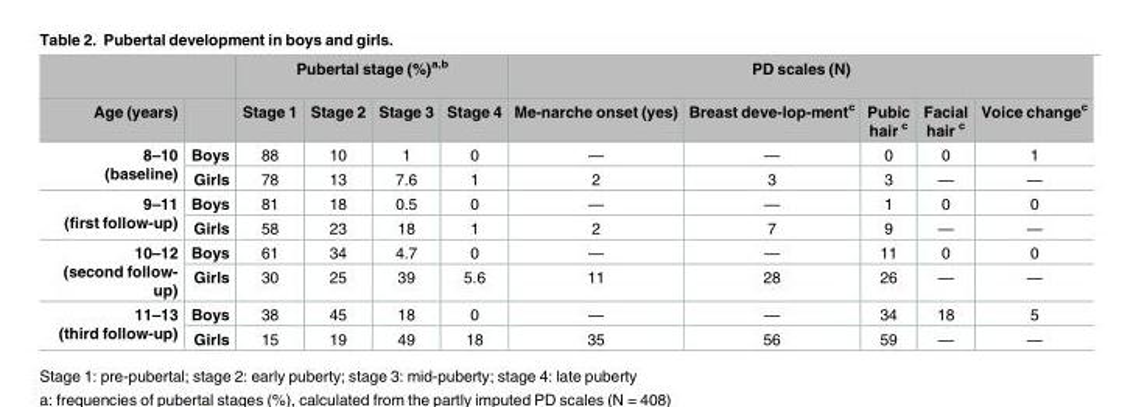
<table><thead><tr><td rowspan="2">Age (years)</td><td rowspan="2"></td><td colspan="4">Pubertal stage (%)<sup>a,b</sup></td><td colspan="5">PD scales (N)</td></tr><tr><td>Stage 1</td><td>Stage 2</td><td>Stage 3</td><td>Stage 4</td><td>Me-narche onset (yes)</td><td>Breast deve-lop-ment<sup>c</sup></td><td>Pubic hair <sup>c</sup></td><td>Facial hair <sup>c</sup></td><td>Voice change<sup>c</sup></td></tr></thead><tbody><tr><td rowspan="2">8–10 (baseline)</td><td>Boys</td><td>88</td><td>10</td><td>1</td><td>0</td><td>—</td><td>—</td><td>0</td><td>0</td><td>1</td></tr><tr><td>Girls</td><td>78</td><td>13</td><td>7.6</td><td>1</td><td>2</td><td>3</td><td>3</td><td>—</td><td>—</td></tr><tr><td rowspan="2">9–11 (first follow-up)</td><td>Boys</td><td>81</td><td>18</td><td>0.5</td><td>0</td><td>—</td><td>—</td><td>1</td><td>0</td><td>0</td></tr><tr><td>Girls</td><td>58</td><td>23</td><td>18</td><td>1</td><td>2</td><td>7</td><td>9</td><td>—</td><td>—</td></tr><tr><td rowspan="2">10–12 (second follow- up)</td><td>Boys</td><td>61</td><td>34</td><td>4.7</td><td>0</td><td>—</td><td>—</td><td>11</td><td>0</td><td>0</td></tr><tr><td>Girls</td><td>30</td><td>25</td><td>39</td><td>5.6</td><td>11</td><td>28</td><td>26</td><td>—</td><td>—</td></tr><tr><td rowspan="2">11–13 (third follow-up)</td><td>Boys</td><td>38</td><td>45</td><td>18</td><td>0</td><td>—</td><td>—</td><td>34</td><td>18</td><td>5</td></tr><tr><td>Girls</td><td>15</td><td>19</td><td>49</td><td>18</td><td>35</td><td>56</td><td>59</td><td>—</td><td>—</td></tr></tbody></table>